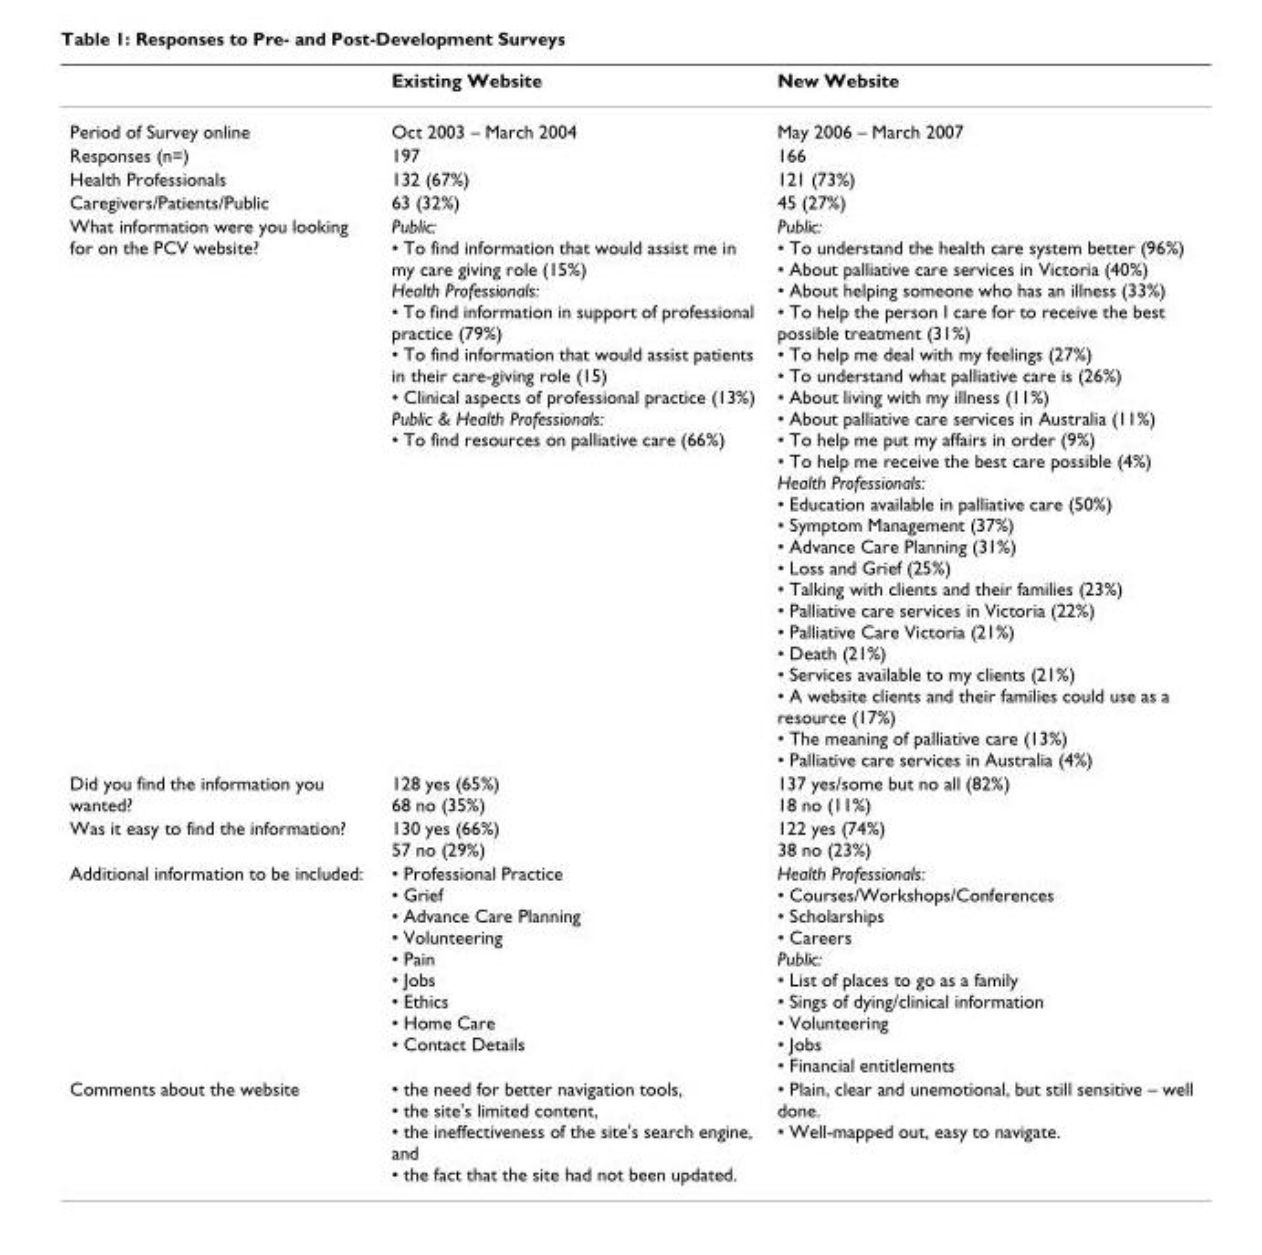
<table><thead><tr><td></td><td>Existing Website</td><td>New Website</td></tr></thead><tbody><tr><td>Period of Survey online</td><td>Oct 2003 – March 2004</td><td>May 2006 – March 2007</td></tr><tr><td>Responses (n=)</td><td>197</td><td>166</td></tr><tr><td>Health Professionals</td><td>132 (67%)</td><td>121 (73%)</td></tr><tr><td>Caregivers/Patients/Public</td><td>63 (32%)</td><td>45 (27%)</td></tr><tr><td>What information were you looking for on the PCV website?</td><td>Public: • To find information that would assist me in my care giving role (15%) Health Professionals: • To find information in support of professional practice (79%) • To find information that would assist patients in their care-giving role (15) • Clinical aspects of professional practice (13%) Public &amp; Health Professionals: • To find resources on palliative care (66%)</td><td>Public: • To understand the health care system better (96%) • About palliative care services in Victoria (40%) • About helping someone who has an illness (33%) • To help the person I care for to receive the best possible treatment (31%) • To help me deal with my feelings (27%) • To understand what palliative care is (26%) • About living with my illness (11%) • About palliative care services in Australia (11%) • To help me put my affairs in order (9%) • To help me receive the best care possible (4%) Health Professionals: • Education available in palliative care (50%) • Symptom Management (37%) • Advance Care Planning (31%) • Loss and Grief (25%) • Talking with clients and their families (23%) • Palliative care services in Victoria (22%) • Palliative Care Victoria (21%) • Death (21%) • Services available to my clients (21%) • A website clients and their families could use as a resource (17%) • The meaning of palliative care (13%) • Palliative care services in Australia (4%)</td></tr><tr><td>Did you find the information you wanted?</td><td>128 yes (65%) 68 no (35%)</td><td>137 yes/some but no all (82%) 18 no (11%)</td></tr><tr><td>Was it easy to find the information?</td><td>130 yes (66%) 57 no (29%)</td><td>122 yes (74%) 38 no (23%)</td></tr><tr><td>Additional information to be included:</td><td>• Professional Practice • Grief • Advance Care Planning • Volunteering • Pain • Jobs • Ethics • Home Care • Contact Details</td><td>Health Professionals: • Courses/Workshops/Conferences • Scholarships • Careers Public: • List of places to go as a family • Sings of dying/clinical information • Volunteering • Jobs • Financial entitlements</td></tr><tr><td>Comments about the website</td><td>• the need for better navigation tools, • the site&#x27;s limited content, • the ineffectiveness of the site&#x27;s search engine, and • the fact that the site had not been updated.</td><td>• Plain, clear and unemotional, but still sensitive – well done. • Well-mapped out, easy to navigate.</td></tr></tbody></table>